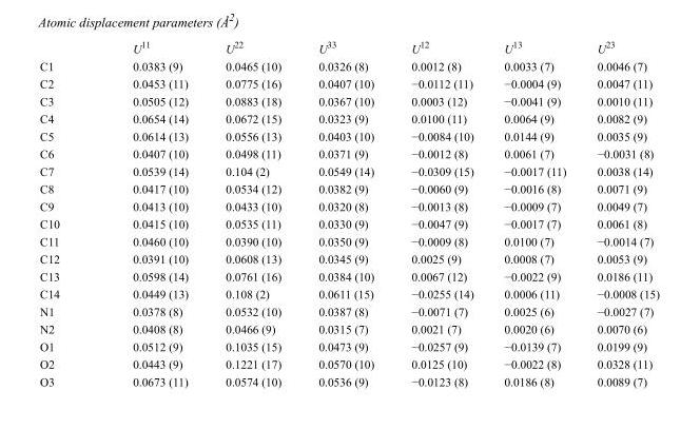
<table><thead><tr><td></td><td>U<sup>11</sup></td><td>U<sup>22</sup></td><td>U<sup>33</sup></td><td>U<sup>12</sup></td><td>U<sup>13</sup></td><td>U<sup>23</sup></td></tr></thead><tbody><tr><td>C1</td><td>0.0383 (9)</td><td>0.0465 (10)</td><td>0.0326 (8)</td><td>0.0012 (8)</td><td>0.0033 (7)</td><td>0.0046 (7)</td></tr><tr><td>C2</td><td>0.0453 (11)</td><td>0.0775 (16)</td><td>0.0407 (10)</td><td>−0.0112 (11)</td><td>−0.0004 (9)</td><td>0.0047 (11)</td></tr><tr><td>C3</td><td>0.0505 (12)</td><td>0.0883 (18)</td><td>0.0367 (10)</td><td>0.0003 (12)</td><td>−0.0041 (9)</td><td>0.0010 (11)</td></tr><tr><td>C4</td><td>0.0654 (14)</td><td>0.0672 (15)</td><td>0.0323 (9)</td><td>0.0100 (11)</td><td>0.0064 (9)</td><td>0.0082 (9)</td></tr><tr><td>C5</td><td>0.0614 (13)</td><td>0.0556 (13)</td><td>0.0403 (10)</td><td>−0.0084 (10)</td><td>0.0144 (9)</td><td>0.0035 (9)</td></tr><tr><td>C6</td><td>0.0407 (10)</td><td>0.0498 (11)</td><td>0.0371 (9)</td><td>−0.0012 (8)</td><td>0.0061 (7)</td><td>−0.0031 (8)</td></tr><tr><td>C7</td><td>0.0539 (14)</td><td>0.104 (2)</td><td>0.0549 (14)</td><td>−0.0309 (15)</td><td>−0.0017 (11)</td><td>0.0038 (14)</td></tr><tr><td>C8</td><td>0.0417 (10)</td><td>0.0534 (12)</td><td>0.0382 (9)</td><td>−0.0060 (9)</td><td>−0.0016 (8)</td><td>0.0071 (9)</td></tr><tr><td>C9</td><td>0.0413 (10)</td><td>0.0433 (10)</td><td>0.0320 (8)</td><td>−0.0013 (8)</td><td>−0.0009 (7)</td><td>0.0049 (7)</td></tr><tr><td>C10</td><td>0.0415 (10)</td><td>0.0535 (11)</td><td>0.0330 (9)</td><td>−0.0047 (9)</td><td>−0.0017 (7)</td><td>0.0061 (8)</td></tr><tr><td>C11</td><td>0.0460 (10)</td><td>0.0390 (10)</td><td>0.0350 (9)</td><td>−0.0009 (8)</td><td>0.0100 (7)</td><td>−0.0014 (7)</td></tr><tr><td>C12</td><td>0.0391 (10)</td><td>0.0608 (13)</td><td>0.0345 (9)</td><td>0.0025 (9)</td><td>0.0008 (7)</td><td>0.0053 (9)</td></tr><tr><td>C13</td><td>0.0598 (14)</td><td>0.0761 (16)</td><td>0.0384 (10)</td><td>0.0067 (12)</td><td>−0.0022 (9)</td><td>0.0186 (11)</td></tr><tr><td>C14</td><td>0.0449 (13)</td><td>0.108 (2)</td><td>0.0611 (15)</td><td>−0.0255 (14)</td><td>0.0006 (11)</td><td>−0.0008 (15)</td></tr><tr><td>N1</td><td>0.0378 (8)</td><td>0.0532 (10)</td><td>0.0387 (8)</td><td>−0.0071 (7)</td><td>0.0025 (6)</td><td>−0.0027 (7)</td></tr><tr><td>N2</td><td>0.0408 (8)</td><td>0.0466 (9)</td><td>0.0315 (7)</td><td>0.0021 (7)</td><td>0.0020 (6)</td><td>0.0070 (6)</td></tr><tr><td>O1</td><td>0.0512 (9)</td><td>0.1035 (15)</td><td>0.0473 (9)</td><td>−0.0257 (9)</td><td>−0.0139 (7)</td><td>0.0199 (9)</td></tr><tr><td>O2</td><td>0.0443 (9)</td><td>0.1221 (17)</td><td>0.0570 (10)</td><td>0.0125 (10)</td><td>−0.0022 (8)</td><td>0.0328 (11)</td></tr><tr><td>O3</td><td>0.0673 (11)</td><td>0.0574 (10)</td><td>0.0536 (9)</td><td>−0.0123 (8)</td><td>0.0186 (8)</td><td>0.0089 (7)</td></tr></tbody></table>